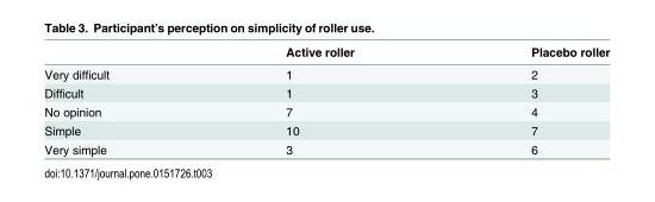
<table><thead><tr><td></td><td>Active roller</td><td>Placebo roller</td></tr></thead><tbody><tr><td>Very difficult</td><td>1</td><td>2</td></tr><tr><td>Difficult</td><td>1</td><td>3</td></tr><tr><td>No opinion</td><td>7</td><td>4</td></tr><tr><td>Simple</td><td>10</td><td>7</td></tr><tr><td>Very simple</td><td>3</td><td>6</td></tr></tbody></table>